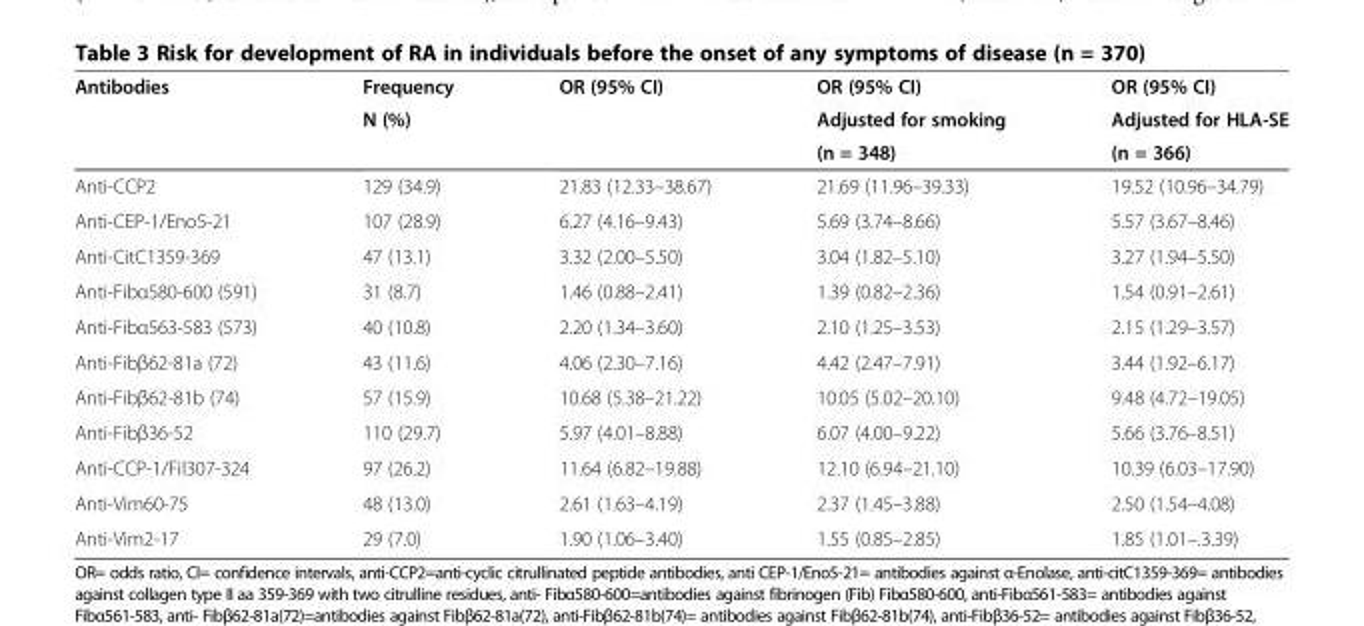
<table><thead><tr><td rowspan="3">Antibodies</td><td rowspan="3">Frequency N (%)</td><td rowspan="3">OR (95% CI)</td><td rowspan="3">OR (95% CI) Adjusted for smoking (n = 348)</td><td rowspan="3">OR (95% CI) Adjusted for HLA-SE (n = 366)</td></tr><tr></tr><tr></tr></thead><tbody><tr><td>Anti-CCP2</td><td>129 (34.9)</td><td>21.83 (12.33–38.67)</td><td>21.69 (11.96–39.33)</td><td>19.52 (10.96–34.79)</td></tr><tr><td>Anti-CEP-1/Eno5-21</td><td>107 (28.9)</td><td>6.27 (4.16–9.43)</td><td>5.69 (3.74–8.66)</td><td>5.57 (3.67–8.46)</td></tr><tr><td>Anti-CitC1359-369</td><td>47 (13.1)</td><td>3.32 (2.00–5.50)</td><td>3.04 (1.82–5.10)</td><td>3.27 (1.94–5.50)</td></tr><tr><td>Anti-Fibα580-600 (591)</td><td>31 (8.7)</td><td>1.46 (0.88–2.41)</td><td>1.39 (0.82–2.36)</td><td>1.54 (0.91–2.61)</td></tr><tr><td>Anti-Fibα563-583 (573)</td><td>40 (10.8)</td><td>2.20 (1.34–3.60)</td><td>2.10 (1.25–3.53)</td><td>2.15 (1.29–3.57)</td></tr><tr><td>Anti-Fibβ62-81a (72)</td><td>43 (11.6)</td><td>4.06 (2.30–7.16)</td><td>4.42 (2.47–7.91)</td><td>3.44 (1.92–6.17)</td></tr><tr><td>Anti-Fibβ62-81b (74)</td><td>57 (15.9)</td><td>10.68 (5.38–21.22)</td><td>10.05 (5.02–20.10)</td><td>9.48 (4.72–19.05)</td></tr><tr><td>Anti-Fibβ36-52</td><td>110 (29.7)</td><td>5.97 (4.01–8.88)</td><td>6.07 (4.00–9.22)</td><td>5.66 (3.76–8.51)</td></tr><tr><td>Anti-CCP-1/Fil307-324</td><td>97 (26.2)</td><td>11.64 (6.82–19.88)</td><td>12.10 (6.94–21.10)</td><td>10.39 (6.03–17.90)</td></tr><tr><td>Anti-Vim60-75</td><td>48 (13.0)</td><td>2.61 (1.63–4.19)</td><td>2.37 (1.45–3.88)</td><td>2.50 (1.54–4.08)</td></tr><tr><td>Anti-Vim2-17</td><td>29 (7.0)</td><td>1.90 (1.06–3.40)</td><td>1.55 (0.85–2.85)</td><td>1.85 (1.01–.3.39)</td></tr></tbody></table>